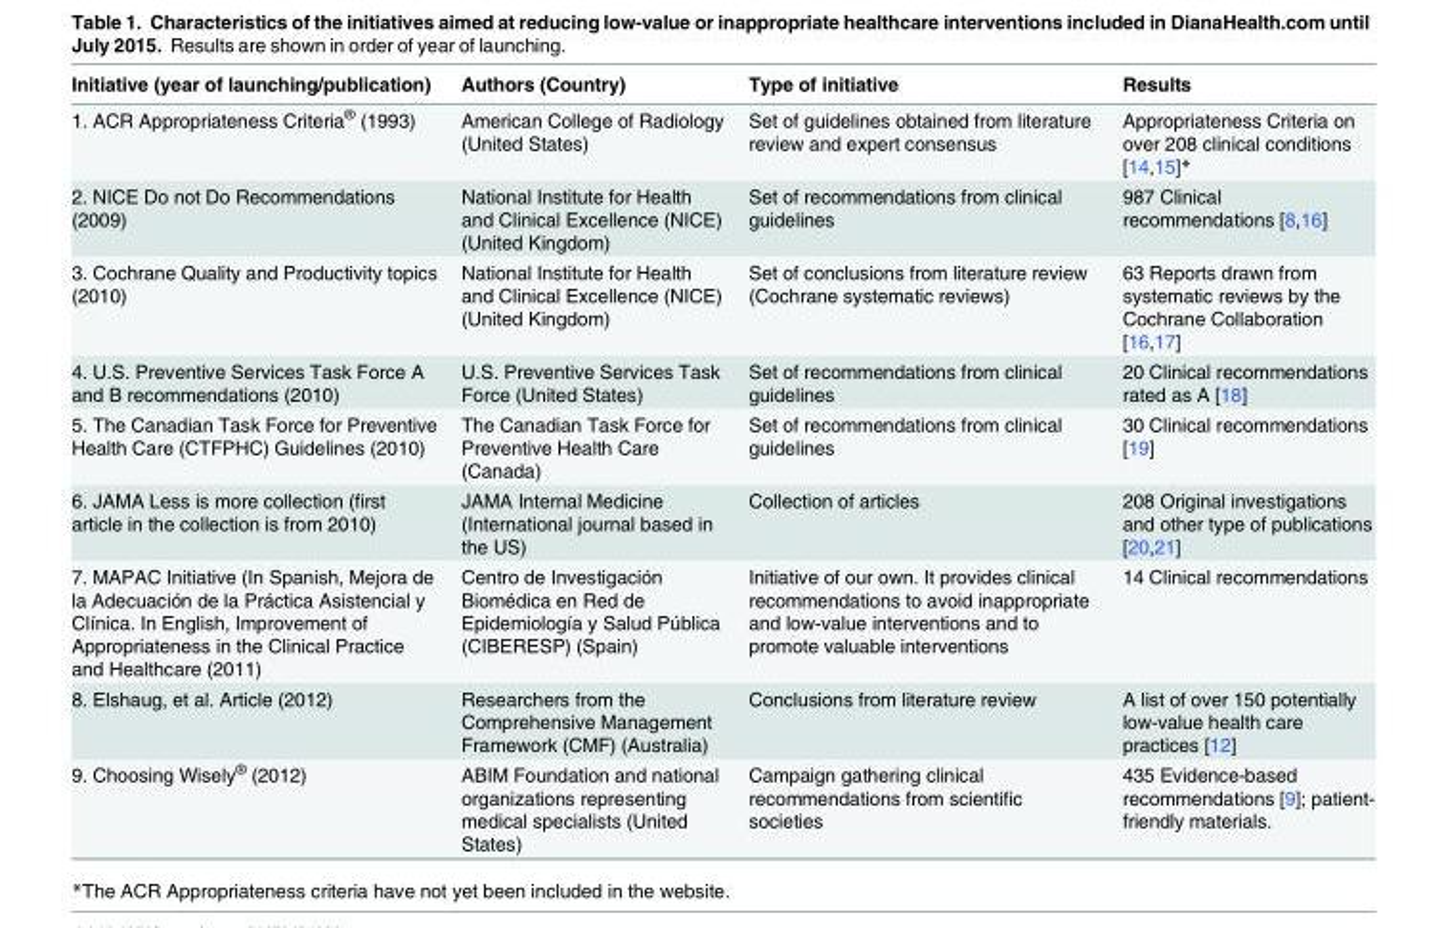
<table><thead><tr><td>Initiative (year of launching/publication)</td><td>Authors (Country)</td><td>Type of initiative</td><td>Results</td></tr></thead><tbody><tr><td>1. ACR Appropriateness Criteria<sup>®</sup> (1993)</td><td>American College of Radiology (United States)</td><td>Set of guidelines obtained from literature review and expert consensus</td><td>Appropriateness Criteria on over 208 clinical conditions [14,15]*</td></tr><tr><td>2. NICE Do not Do Recommendations (2009)</td><td>National Institute for Health and Clinical Excellence (NICE) (United Kingdom)</td><td>Set of recommendations from clinical guidelines</td><td>987 Clinical recommendations [8,16]</td></tr><tr><td>3. Cochrane Quality and Productivity topics (2010)</td><td>National Institute for Health and Clinical Excellence (NICE) (United Kingdom)</td><td>Set of conclusions from literature review (Cochrane systematic reviews)</td><td>63 Reports drawn from systematic reviews by the Cochrane Collaboration [16,17]</td></tr><tr><td>4. U.S. Preventive Services Task Force A and B recommendations (2010)</td><td>U.S. Preventive Services Task Force (United States)</td><td>Set of recommendations from clinical guidelines</td><td>20 Clinical recommendations rated as A [18]</td></tr><tr><td>5. The Canadian Task Force for Preventive Health Care (CTFPHC) Guidelines (2010)</td><td>The Canadian Task Force for Preventive Health Care (Canada)</td><td>Set of recommendations from clinical guidelines</td><td>30 Clinical recommendations [19]</td></tr><tr><td>6. JAMA Less is more collection (first article in the collection is from 2010)</td><td>JAMA Internal Medicine (International journal based in the US)</td><td>Collection of articles</td><td>208 Original investigations and other type of publications [20,21]</td></tr><tr><td>7. MAPAC Initiative (In Spanish, Mejora de la Adecuación de la Práctica Asistencial y Clínica. In English, Improvement of Appropriateness in the Clinical Practice and Healthcare (2011)</td><td>Centro de Investigación Biomédica en Red de Epidemiología y Salud Pública (CIBERESP) (Spain)</td><td>Initiative of our own. It provides clinical recommendations to avoid inappropriate and low-value interventions and to promote valuable interventions</td><td>14 Clinical recommendations</td></tr><tr><td>8. Elshaug, et al. Article (2012)</td><td>Researchers from the Comprehensive Management Framework (CMF) (Australia)</td><td>Conclusions from literature review</td><td>A list of over 150 potentially low-value health care practices [12]</td></tr><tr><td>9. Choosing Wisely<sup>®</sup> (2012)</td><td>ABIM Foundation and national organizations representing medical specialists (United States)</td><td>Campaign gathering clinical recommendations from scientific societies</td><td>435 Evidence-based recommendations [9]; patient- friendly materials.</td></tr></tbody></table>